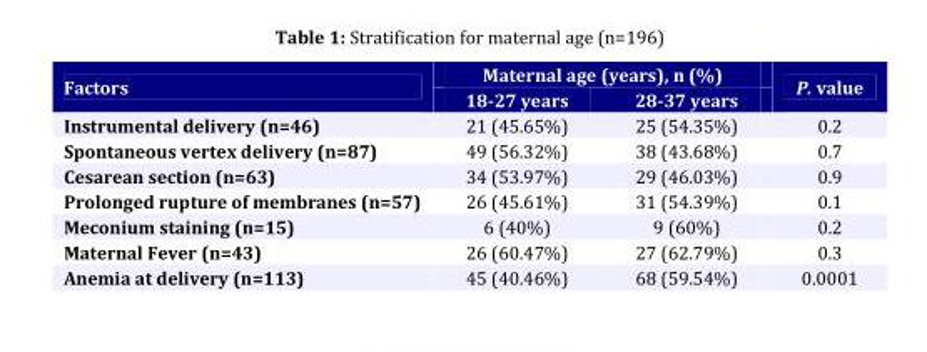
<table><thead><tr><td rowspan="2">Factors</td><td colspan="2">Maternal age (years), n (%)</td><td rowspan="2">P. value</td></tr><tr><td>18-27 years</td><td>28-37 years</td></tr></thead><tbody><tr><td>Instrumental delivery (n=46)</td><td>21 (45.65%)</td><td>25 (54.35%)</td><td>0.2</td></tr><tr><td>Spontaneous vertex delivery (n=87)</td><td>49 (56.32%)</td><td>38 (43.68%)</td><td>0.7</td></tr><tr><td>Cesarean section (n=63)</td><td>34 (53.97%)</td><td>29 (46.03%)</td><td>0.9</td></tr><tr><td>Prolonged rupture of membranes (n=57)</td><td>26 (45.61%)</td><td>31 (54.39%)</td><td>0.1</td></tr><tr><td>Meconium staining (n=15)</td><td>6 (40%)</td><td>9 (60%)</td><td>0.2</td></tr><tr><td>Maternal Fever (n=43)</td><td>26 (60.47%)</td><td>27 (62.79%)</td><td>0.3</td></tr><tr><td>Anemia at delivery (n=113)</td><td>45 (40.46%)</td><td>68 (59.54%)</td><td>0.0001</td></tr></tbody></table>